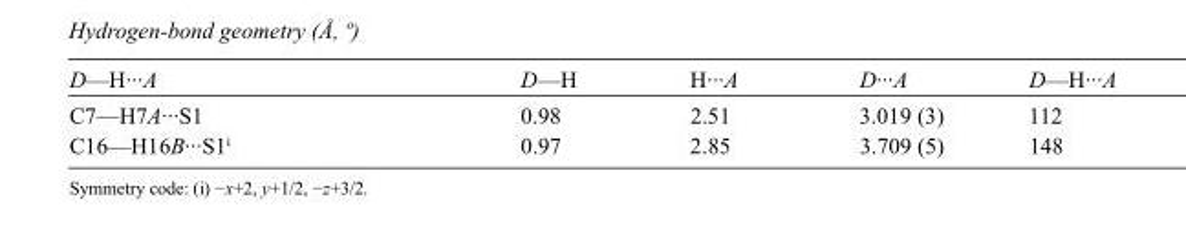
<table><tbody><tr><td>D—H···A</td><td>D—H</td><td>H···A</td><td>D···A</td><td>D—H···A</td></tr><tr><td>C7—H7A···S1</td><td>0.98</td><td>2.51</td><td>3.019 (3)</td><td>112</td></tr><tr><td>C16—H16B···S1<sup>i</sup></td><td>0.97</td><td>2.85</td><td>3.709 (5)</td><td>148</td></tr></tbody></table>